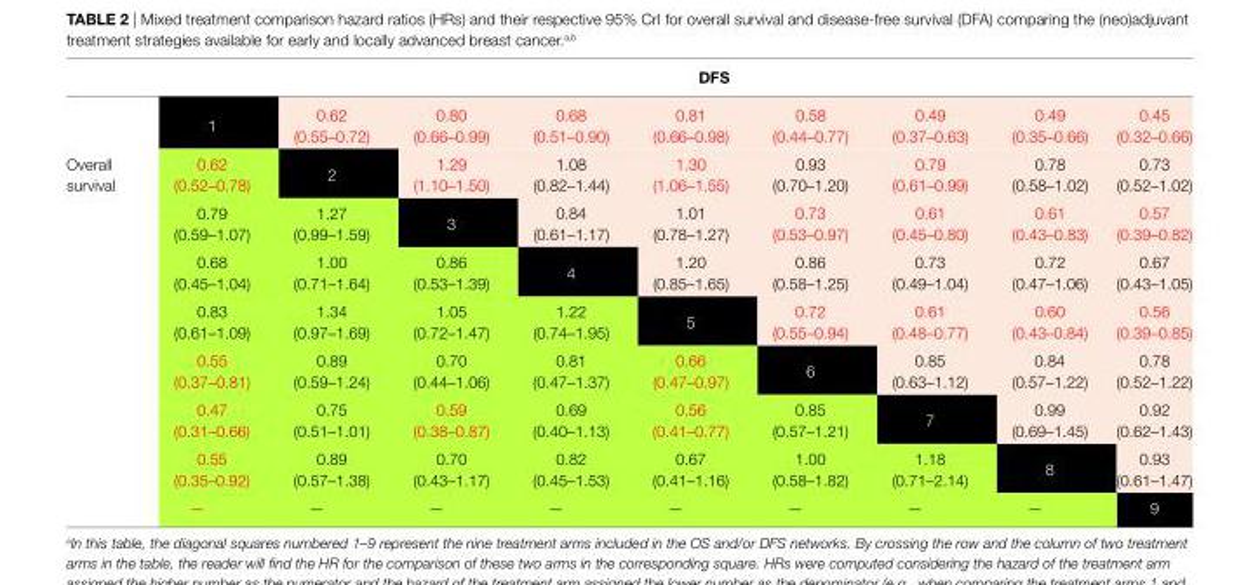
<table><thead><tr><td rowspan="2"></td><td rowspan="2">1</td><td colspan="8">DFS</td></tr><tr><td>0.62 (0.55–0.72)</td><td>0.80 (0.66–0.99)</td><td>0.68 (0.51–0.90)</td><td>0.81 (0.66–0.98)</td><td>0.58 (0.44–0.77)</td><td>0.49 (0.37–0.63)</td><td>0.49 (0.35–0.66)</td><td>0.45 (0.32–0.66)</td></tr></thead><tbody><tr><td rowspan="8">Overall survival</td><td>0.62 (0.52–0.78)</td><td>2</td><td>1.29 (1.10–1.50)</td><td>1.08 (0.82–1.44)</td><td>1.30 (1.06–1.55)</td><td>0.93 (0.70–1.20)</td><td>0.79 (0.61–0.99)</td><td>0.78 (0.58–1.02)</td><td>0.73 (0.52–1.02)</td></tr><tr><td>0.79 (0.59–1.07)</td><td>1.27 (0.99–1.59)</td><td>3</td><td>0.84 (0.61–1.17)</td><td>1.01 (0.78–1.27)</td><td>0.73 (0.53–0.97)</td><td>0.61 (0.45–0.80)</td><td>0.61 (0.43–0.83)</td><td>0.57 (0.39–0.82)</td></tr><tr><td>0.68 (0.45–1.04)</td><td>1.00 (0.71–1.64)</td><td>0.86 (0.53–1.39)</td><td>4</td><td>1.20 (0.85–1.65)</td><td>0.86 (0.58–1.25)</td><td>0.73 (0.49–1.04)</td><td>0.72 (0.47–1.06)</td><td>0.67 (0.43–1.05)</td></tr><tr><td>0.83 (0.61–1.09)</td><td>1.34 (0.97–1.69)</td><td>1.05 (0.72–1.47)</td><td>1.22 (0.74–1.95)</td><td>5</td><td>0.72 (0.55–0.94)</td><td>0.61 (0.48–0.77)</td><td>0.60 (0.43–0.84)</td><td>0.56 (0.39–0.85)</td></tr><tr><td>0.55 (0.37–0.81)</td><td>0.89 (0.59–1.24)</td><td>0.70 (0.44–1.06)</td><td>0.81 (0.47–1.37)</td><td>0.66 (0.47–0.97)</td><td>6</td><td>0.85 (0.63–1.12)</td><td>0.84 (0.57–1.22)</td><td>0.78 (0.52–1.22)</td></tr><tr><td>0.47 (0.31–0.66)</td><td>0.75 (0.51–1.01)</td><td>0.59 (0.38–0.87)</td><td>0.69 (0.40–1.13)</td><td>0.56 (0.41–0.77)</td><td>0.85 (0.57–1.21)</td><td>7</td><td>0.99 (0.69–1.45)</td><td>0.92 (0.62–1.43)</td></tr><tr><td>0.55 (0.35–0.92)</td><td>0.89 (0.57–1.38)</td><td>0.70 (0.43–1.17)</td><td>0.82 (0.45–1.53)</td><td>0.67 (0.41–1.16)</td><td>1.00 (0.58–1.82)</td><td>1.18 (0.71–2.14)</td><td>8</td><td>0.93 (0.61–1.47)</td></tr><tr><td>—</td><td>—</td><td>—</td><td>—</td><td>—</td><td>—</td><td>—</td><td>—</td><td>9</td></tr></tbody></table>